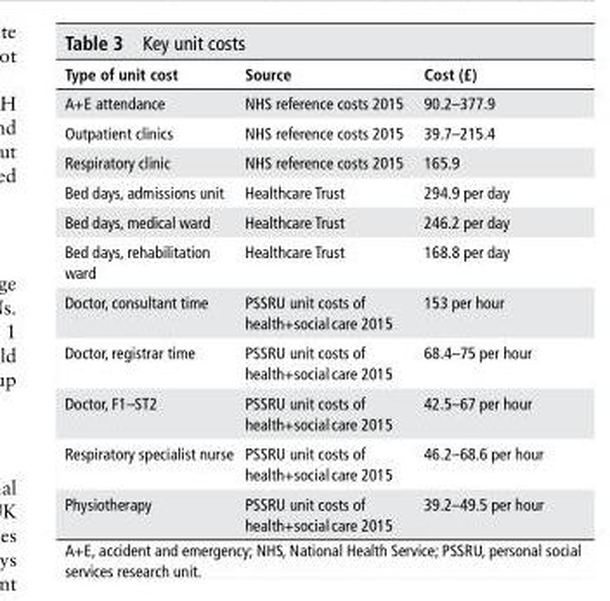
<table><thead><tr><td>Type of unit cost</td><td>source</td><td>Cost (£)</td></tr></thead><tbody><tr><td>A+E attendance</td><td>NHS reference costs 2015</td><td>90.2–377.9</td></tr><tr><td>Outpatient clinics</td><td>NHS reference costs 2015</td><td>39.7–215.4</td></tr><tr><td>Respiratory clinic</td><td>NHS reference costs 2015</td><td>165.9</td></tr><tr><td>Bed days, admissions unit</td><td>Healthcare Trust</td><td>294.9 per day</td></tr><tr><td>Bed days, medical ward</td><td>Healthcare Trust</td><td>246.2 per day</td></tr><tr><td>Bed days, rehabilitation ward</td><td>Healthcare Trust</td><td>168.8 per day</td></tr><tr><td>Doctor, consultant time</td><td>PSSRU unit costs of health+social care 2015</td><td>153 per hour</td></tr><tr><td>Doctor, registrar time</td><td>PSSRU unit costs of health+social care 2015</td><td>68.4–75 per hour</td></tr><tr><td>Doctor, F1–ST2</td><td>PSSRU unit costs of health+social care 2015</td><td>42.5–67 per hour</td></tr><tr><td>Respiratory specialist nurse</td><td>PSSRU unit costs of health+social care 2015</td><td>46.2–68.6 per hour</td></tr><tr><td>Physiotherapy</td><td>PSSRU unit costs of health+social care 2015</td><td>39.2–49.5 per hour</td></tr></tbody></table>